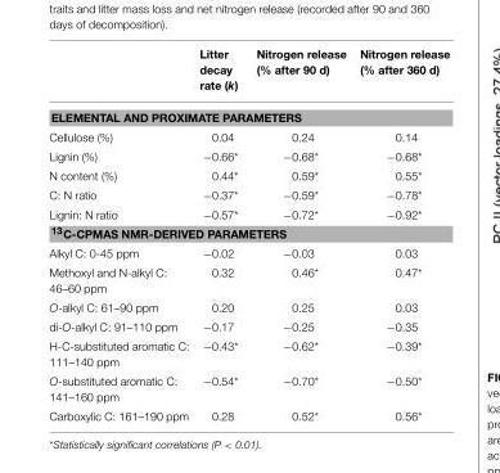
<table><thead><tr><td></td><td>Litter decay rate (k)</td><td>Nitrogen release (% after 90 d)</td><td>Nitrogen release (% after 360 d)</td></tr></thead><tbody><tr><td colspan="4">ELEMENTAL AND PROXIMATE PARAMETERS</td></tr><tr><td>Cellulose (%)</td><td>0.04</td><td>0.24</td><td>0.14</td></tr><tr><td>Lignin (%)</td><td>−0.66*</td><td>−0.68*</td><td>−0.68*</td></tr><tr><td>N content (%)</td><td>0.44*</td><td>0.59*</td><td>0.55*</td></tr><tr><td>C: N ratio</td><td>−0.37*</td><td>−0.59*</td><td>−0.78*</td></tr><tr><td>Lignin: N ratio</td><td>−0.57*</td><td>−0.72*</td><td>−0.92*</td></tr><tr><td colspan="4"><sup>13</sup>C-CPMAS NMR-DERIVED PARAMETERS</td></tr><tr><td>Alkyl C: 0-45 ppm</td><td>−0.02</td><td>−0.03</td><td>0.03</td></tr><tr><td>Methoxyl and N-alkyl C: 46–60 ppm</td><td>0.32</td><td>0.46*</td><td>0.47*</td></tr><tr><td>O-alkyl C: 61–90 ppm</td><td>0.20</td><td>0.25</td><td>0.03</td></tr><tr><td>di-O-alkyl C: 91–110 ppm</td><td>−0.17</td><td>−0.25</td><td>−0.35</td></tr><tr><td>H-C-substituted aromatic C: 111–140 ppm</td><td>−0.43*</td><td>−0.62*</td><td>−0.39*</td></tr><tr><td>O-substituted aromatic C: 141–160 ppm</td><td>−0.54*</td><td>−0.70*</td><td>−0.50*</td></tr><tr><td>Carboxylic C: 161–190 ppm</td><td>0.28</td><td>0.52*</td><td>0.56*</td></tr></tbody></table>